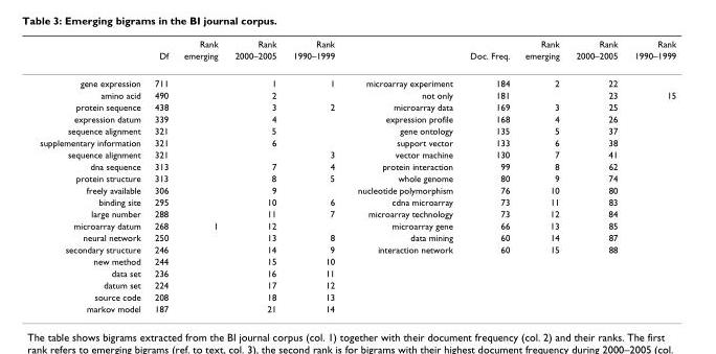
<table><thead><tr><td rowspan="2"></td><td rowspan="2">Df</td><td rowspan="2">Rank emerging</td><td rowspan="2">Rank 2000–2005</td><td rowspan="2">Rank 1990–1999</td><td rowspan="2"></td><td rowspan="2">Doc. Freq.</td><td rowspan="2">Rank emerging</td><td rowspan="2">Rank 2000–2005</td><td rowspan="2">Rank 1990–1999</td></tr><tr></tr></thead><tbody><tr><td>gene expression</td><td>711</td><td></td><td>1</td><td>1</td><td>microarray experiment</td><td>184</td><td>2</td><td>22</td><td></td></tr><tr><td>amino acid</td><td>490</td><td></td><td>2</td><td></td><td>not only</td><td>181</td><td></td><td>23</td><td>15</td></tr><tr><td>protein sequence</td><td>438</td><td></td><td>3</td><td>2</td><td>microarray data</td><td>169</td><td>3</td><td>25</td><td></td></tr><tr><td>expression datum</td><td>339</td><td></td><td>4</td><td></td><td>expression profile</td><td>168</td><td>4</td><td>26</td><td></td></tr><tr><td>sequence alignment</td><td>321</td><td></td><td>5</td><td></td><td>gene ontology</td><td>135</td><td>5</td><td>37</td><td></td></tr><tr><td>supplementary information</td><td>321</td><td></td><td>6</td><td></td><td>support vector</td><td>133</td><td>6</td><td>38</td><td></td></tr><tr><td>sequence alignment</td><td>321</td><td></td><td></td><td>3</td><td>vector machine</td><td>130</td><td>7</td><td>41</td><td></td></tr><tr><td>dna sequence</td><td>313</td><td></td><td>7</td><td>4</td><td>protein interaction</td><td>99</td><td>8</td><td>62</td><td></td></tr><tr><td>protein structure</td><td>313</td><td></td><td>8</td><td>5</td><td>whole genome</td><td>80</td><td>9</td><td>74</td><td></td></tr><tr><td>freely available</td><td>306</td><td></td><td>9</td><td></td><td>nucleotide polymorphism</td><td>76</td><td>10</td><td>80</td><td></td></tr><tr><td>binding site</td><td>295</td><td></td><td>10</td><td>6</td><td>cdna microarray</td><td>73</td><td>11</td><td>83</td><td></td></tr><tr><td>large number</td><td>288</td><td></td><td>11</td><td>7</td><td>microarray technology</td><td>73</td><td>12</td><td>84</td><td></td></tr><tr><td>microarray datum</td><td>268</td><td>1</td><td>12</td><td></td><td>microarray gene</td><td>66</td><td>13</td><td>85</td><td></td></tr><tr><td>neural network</td><td>250</td><td></td><td>13</td><td>8</td><td>data mining</td><td>60</td><td>14</td><td>87</td><td></td></tr><tr><td>secondary structure</td><td>246</td><td></td><td>14</td><td>9</td><td>interaction network</td><td>60</td><td>15</td><td>88</td><td></td></tr><tr><td>new method</td><td>244</td><td></td><td>15</td><td>10</td><td></td><td></td><td></td><td></td><td></td></tr><tr><td>data set</td><td>236</td><td></td><td>16</td><td>11</td><td></td><td></td><td></td><td></td><td></td></tr><tr><td>datum set</td><td>224</td><td></td><td>17</td><td>12</td><td></td><td></td><td></td><td></td><td></td></tr><tr><td>source code</td><td>208</td><td></td><td>18</td><td>13</td><td></td><td></td><td></td><td></td><td></td></tr><tr><td>markov model</td><td>187</td><td></td><td>21</td><td>14</td><td></td><td></td><td></td><td></td><td></td></tr></tbody></table>